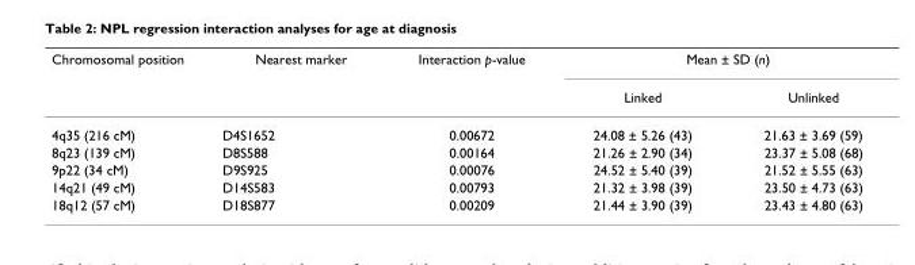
<table><thead><tr><td rowspan="2">Chromosomal position</td><td rowspan="2">Nearest marker</td><td rowspan="2">Interaction p-value</td><td colspan="2">Mean ± SD (n)</td></tr><tr><td>Linked</td><td>Unlinked</td></tr></thead><tbody><tr><td>4q35 (216 cM)</td><td>D4S1652</td><td>0.00672</td><td>24.08 ± 5.26 (43)</td><td>21.63 ± 3.69 (59)</td></tr><tr><td>8q23 (139 cM)</td><td>D8S588</td><td>0.00164</td><td>21.26 ± 2.90 (34)</td><td>23.37 ± 5.08 (68)</td></tr><tr><td>9p22 (34 cM)</td><td>D9S925</td><td>0.00076</td><td>24.52 ± 5.40 (39)</td><td>21.52 ± 5.55 (63)</td></tr><tr><td>14q21 (49 cM)</td><td>D14S583</td><td>0.00793</td><td>21.32 ± 3.98 (39)</td><td>23.50 ± 4.73 (63)</td></tr><tr><td>18q12 (57 cM)</td><td>D18S877</td><td>0.00209</td><td>21.44 ± 3.90 (39)</td><td>23.43 ± 4.80 (63)</td></tr></tbody></table>